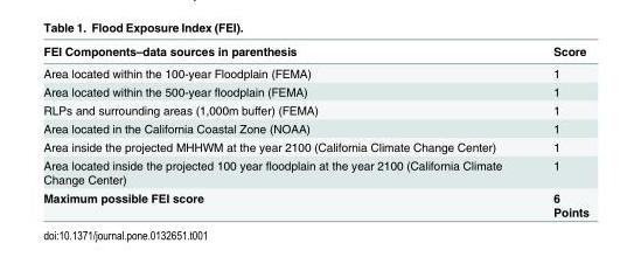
<table><thead><tr><td>FEI Components–data sources in parenthesis</td><td>Score</td></tr></thead><tbody><tr><td>Area located within the 100-year Floodplain (FEMA)</td><td>1</td></tr><tr><td>Area located within the 500-year floodplain (FEMA)</td><td>1</td></tr><tr><td>RLPs and surrounding areas (1,000m buffer) (FEMA)</td><td>1</td></tr><tr><td>Area located in the California Coastal Zone (NOAA)</td><td>1</td></tr><tr><td>Area inside the projected MHHWM at the year 2100 (California Climate Change Center)</td><td>1</td></tr><tr><td>Area located inside the projected 100 year floodplain at the year 2100 (California Climate Change Center)</td><td>1</td></tr><tr><td>Maximum possible FEI score</td><td>6 Points</td></tr></tbody></table>